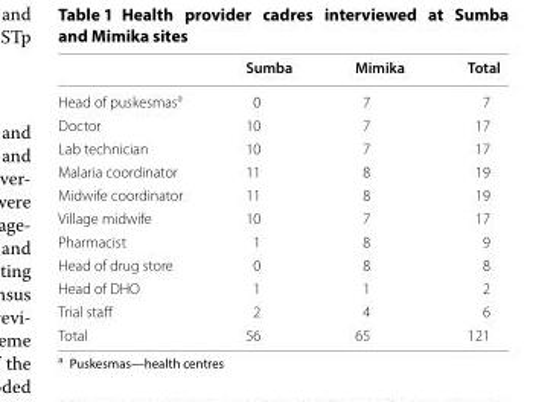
<table><thead><tr><td></td><td>Sumba</td><td>Mimika</td><td>Total</td></tr></thead><tbody><tr><td>Head of puskesmas<sup>a</sup></td><td>0</td><td>7</td><td>7</td></tr><tr><td>Doctor</td><td>10</td><td>7</td><td>17</td></tr><tr><td>Lab technician</td><td>10</td><td>7</td><td>17</td></tr><tr><td>Malaria coordinator</td><td>11</td><td>8</td><td>19</td></tr><tr><td>Midwife coordinator</td><td>11</td><td>8</td><td>19</td></tr><tr><td>Village midwife</td><td>10</td><td>7</td><td>17</td></tr><tr><td>Pharmacist</td><td>1</td><td>8</td><td>9</td></tr><tr><td>Head of drug store</td><td>0</td><td>8</td><td>8</td></tr><tr><td>Head of DHO</td><td>1</td><td>1</td><td>2</td></tr><tr><td>Trial staff</td><td>2</td><td>4</td><td>6</td></tr><tr><td>Total</td><td>56</td><td>65</td><td>121</td></tr></tbody></table>